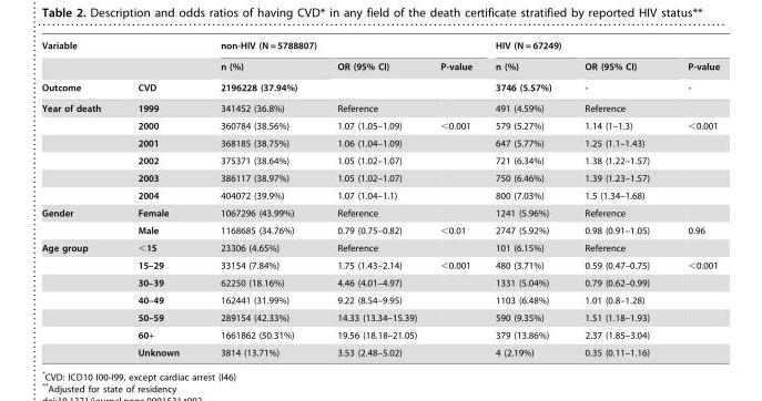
<table><thead><tr><td colspan="2">Variable</td><td colspan="3">non-HIV (N = 5788807)</td><td colspan="3">HIV (N = 67249)</td></tr><tr><td rowspan="2">Outcome</td><td rowspan="2">CVD</td><td rowspan="2">n (%) 2196228 (37.94%)</td><td rowspan="2">OR (95% CI)</td><td rowspan="2">P-value</td><td rowspan="2">n (%) 3746 (5.57%)</td><td rowspan="2">OR (95% CI) -</td><td rowspan="2">P-value -</td></tr><tr></tr></thead><tbody><tr><td rowspan="6">Year of death</td><td>1999</td><td>341452 (36.8%)</td><td>Reference</td><td></td><td>491 (4.59%)</td><td>Reference</td><td></td></tr><tr><td>2000</td><td>360784 (38.56%)</td><td>1.07 (1.05–1.09)</td><td>&lt;0.001</td><td>579 (5.27%)</td><td>1.14 (1–1.3)</td><td>&lt;0.001</td></tr><tr><td>2001</td><td>368185 (38.75%)</td><td>1.06 (1.04–1.09)</td><td></td><td>647 (5.77%)</td><td>1.25 (1.1–1.43)</td><td></td></tr><tr><td>2002</td><td>375371 (38.64%)</td><td>1.05 (1.02–1.07)</td><td></td><td>721 (6.34%)</td><td>1.38 (1.22–1.57)</td><td></td></tr><tr><td>2003</td><td>386117 (38.97%)</td><td>1.05 (1.02–1.07)</td><td></td><td>750 (6.46%)</td><td>1.39 (1.23–1.57)</td><td></td></tr><tr><td>2004</td><td>404072 (39.9%)</td><td>1.07 (1.04–1.1)</td><td></td><td>800 (7.03%)</td><td>1.5 (1.34–1.68)</td><td></td></tr><tr><td rowspan="2">Gender</td><td>Female</td><td>1067296 (43.99%)</td><td>Reference</td><td></td><td>1241 (5.96%)</td><td>Reference</td><td></td></tr><tr><td>Male</td><td>1168685 (34.76%)</td><td>0.79 (0.75–0.82)</td><td>&lt;0.01</td><td>2747 (5.92%)</td><td>0.98 (0.91–1.05)</td><td>0.96</td></tr><tr><td rowspan="7">Age group</td><td>&lt;15</td><td>23306 (4.65%)</td><td>Reference</td><td></td><td>101 (6.15%)</td><td>Reference</td><td></td></tr><tr><td>15–29</td><td>33154 (7.84%)</td><td>1.75 (1.43–2.14)</td><td>&lt;0.001</td><td>480 (3.71%)</td><td>0.59 (0.47–0.75)</td><td>&lt;0.001</td></tr><tr><td>30–39</td><td>62250 (18.16%)</td><td>4.46 (4.01–4.97)</td><td></td><td>1331 (5.04%)</td><td>0.79 (0.62–0.99)</td><td></td></tr><tr><td>40–49</td><td>162441 (31.99%)</td><td>9.22 (8.54–9.95)</td><td></td><td>1103 (6.48%)</td><td>1.01 (0.8–1.28)</td><td></td></tr><tr><td>50–59</td><td>289154 (42.33%)</td><td>14.33 (13.34–15.39)</td><td></td><td>590 (9.35%)</td><td>1.51 (1.18–1.93)</td><td></td></tr><tr><td>60+</td><td>1661862 (50.31%)</td><td>19.56 (18.18–21.05)</td><td></td><td>379 (13.86%)</td><td>2.37 (1.85–3.04)</td><td></td></tr><tr><td>Unknown</td><td>3814 (13.71%)</td><td>3.53 (2.48–5.02)</td><td></td><td>4 (2.19%)</td><td>0.35 (0.11–1.16)</td><td></td></tr></tbody></table>